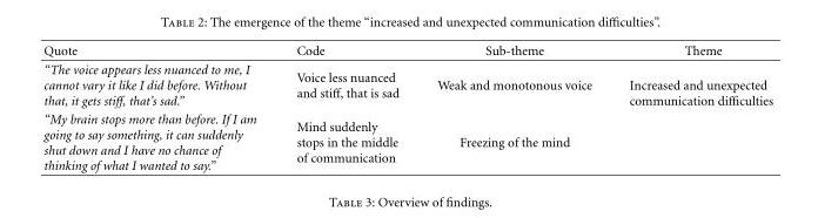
<table><thead><tr><td>Quote</td><td>Code</td><td>Sub-theme</td><td>Theme</td></tr></thead><tbody><tr><td>“The voice appears less nuanced to me, I cannot vary it like I did before. Without that, it gets stiff, that’s sad.”</td><td>Voice less nuanced and stiff, that is sad</td><td>Weak and monotonous voice</td><td rowspan="2">Increased and unexpected communication difficulties</td></tr><tr><td>“My brain stops more than before. If I am going to say something, it can suddenly shut down and I have no chance of thinking of what I wanted to say.”</td><td>Mind suddenly stops in the middle of communication</td><td>Freezing of the mind</td></tr></tbody></table>